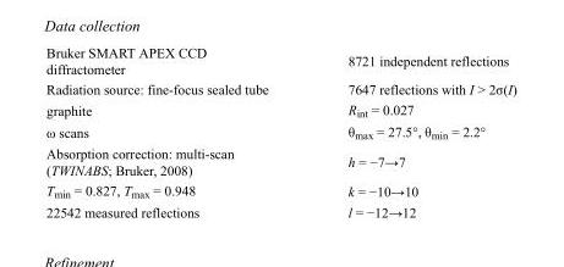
<table><tbody><tr><td>Bruker SMART APEX CCD diffractometer</td><td>8721 independent reflections</td></tr><tr><td>Radiation source: fine-focus sealed tube</td><td>7647 reflections with I &gt; 2σ(I)</td></tr><tr><td>graphite</td><td>R<sub>int</sub> = 0.027</td></tr><tr><td>ω scans</td><td>θ<sub>max</sub> = 27.5°, θ<sub>min</sub> = 2.2°</td></tr><tr><td>Absorption correction: multi-scan (TWINABS; Bruker, 2008)</td><td>h = −7→7</td></tr><tr><td>T<sub>min</sub> = 0.827, T<sub>max</sub> = 0.948</td><td>k = −10→10</td></tr><tr><td>22542 measured reflections</td><td>l = −12→12</td></tr></tbody></table>